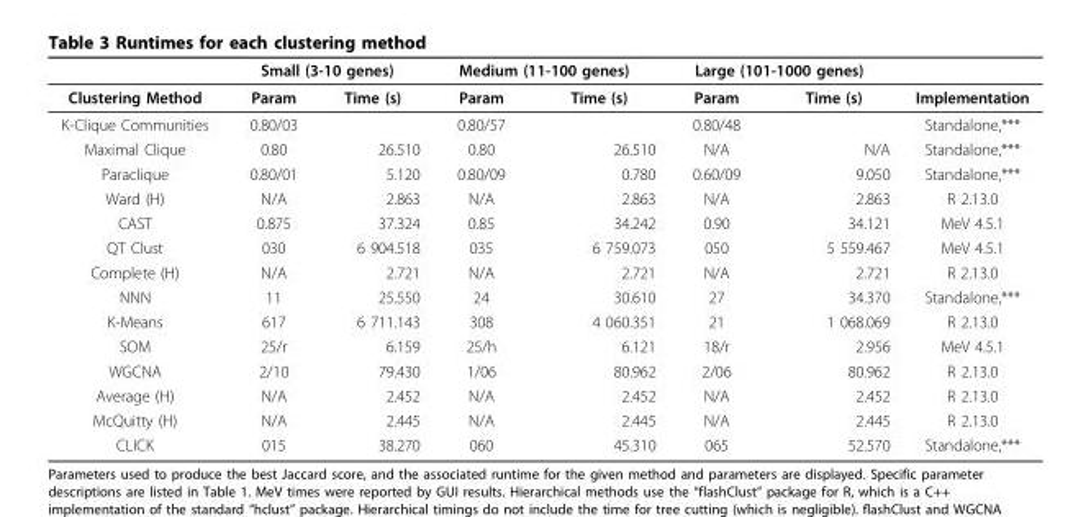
<table><thead><tr><td rowspan="2">Clustering Method</td><td colspan="2">Small (3-10 genes)</td><td colspan="2">Medium (11-100 genes)</td><td colspan="2">Large (101-1000 genes)</td><td rowspan="2">Implementation</td></tr><tr><td>Param</td><td>Time (s)</td><td>Param</td><td>Time (s)</td><td>Param</td><td>Time (s)</td></tr></thead><tbody><tr><td>K-Clique Communities</td><td>0.80/03</td><td></td><td>0.80/57</td><td></td><td>0.80/48</td><td></td><td>Standalone,***</td></tr><tr><td>Maximal Clique</td><td>0.80</td><td>26.510</td><td>0.80</td><td>26.510</td><td>N/A</td><td>N/A</td><td>Standalone,***</td></tr><tr><td>Paraclique</td><td>0.80/01</td><td>5.120</td><td>0.80/09</td><td>0.780</td><td>0.60/09</td><td>9.050</td><td>Standalone,***</td></tr><tr><td>Ward (H)</td><td>N/A</td><td>2.863</td><td>N/A</td><td>2.863</td><td>N/A</td><td>2.863</td><td>R 2.13.0</td></tr><tr><td>CAST</td><td>0.875</td><td>37.324</td><td>0.85</td><td>34.242</td><td>0.90</td><td>34.121</td><td>MeV 4.5.1</td></tr><tr><td>QT Clust</td><td>030</td><td>6 904.518</td><td>035</td><td>6 759.073</td><td>050</td><td>5 559.467</td><td>MeV 4.5.1</td></tr><tr><td>Complete (H)</td><td>N/A</td><td>2.721</td><td>N/A</td><td>2.721</td><td>N/A</td><td>2.721</td><td>R 2.13.0</td></tr><tr><td>NNN</td><td>11</td><td>25.550</td><td>24</td><td>30.610</td><td>27</td><td>34.370</td><td>Standalone,***</td></tr><tr><td>K-Means</td><td>617</td><td>6 711.143</td><td>308</td><td>4 060.351</td><td>21</td><td>1 068.069</td><td>R 2.13.0</td></tr><tr><td>SOM</td><td>25/r</td><td>6.159</td><td>25/h</td><td>6.121</td><td>18/r</td><td>2.956</td><td>MeV 4.5.1</td></tr><tr><td>WGCNA</td><td>2/10</td><td>79.430</td><td>1/06</td><td>80.962</td><td>2/06</td><td>80.962</td><td>R 2.13.0</td></tr><tr><td>Average (H)</td><td>N/A</td><td>2.452</td><td>N/A</td><td>2.452</td><td>N/A</td><td>2.452</td><td>R 2.13.0</td></tr><tr><td>McQuitty (H)</td><td>N/A</td><td>2.445</td><td>N/A</td><td>2.445</td><td>N/A</td><td>2.445</td><td>R 2.13.0</td></tr><tr><td>CLICK</td><td>015</td><td>38.270</td><td>060</td><td>45.310</td><td>065</td><td>52.570</td><td>Standalone,***</td></tr></tbody></table>